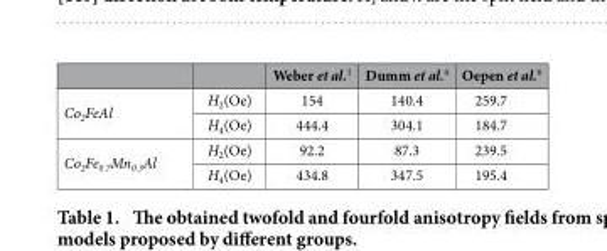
<table><thead><tr><td></td><td></td><td>Weber et al.<sup>1</sup></td><td>Dumm et al.<sup>4</sup></td><td>Oepen et al.<sup>6</sup></td></tr></thead><tbody><tr><td rowspan="2">Co<sub>2</sub>FeAl</td><td>H<sub>2</sub>(Oe)</td><td>154</td><td>140.4</td><td>259.7</td></tr><tr><td>H<sub>4</sub>(Oe)</td><td>444.4</td><td>304.1</td><td>184.7</td></tr><tr><td rowspan="2">Co<sub>2</sub>Fe<sub>0.7</sub>Mn<sub>0.3</sub>Al</td><td>H<sub>2</sub>(Oe)</td><td>92.2</td><td>87.3</td><td>239.5</td></tr><tr><td>H<sub>4</sub>(Oe)</td><td>434.8</td><td>347.5</td><td>195.4</td></tr></tbody></table>